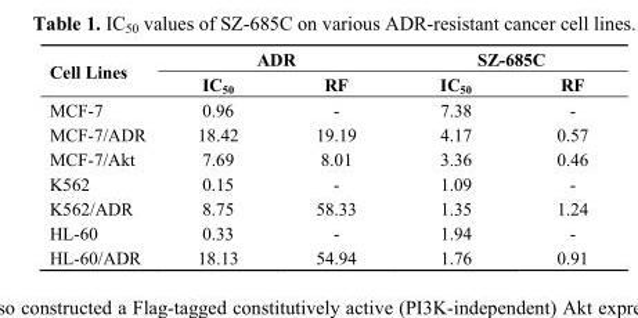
<table><thead><tr><td rowspan="2">Cell Lines</td><td colspan="2">ADR</td><td colspan="2">SZ-685C</td></tr><tr><td>IC<sub>50</sub></td><td>RF</td><td>IC<sub>50</sub></td><td>RF</td></tr></thead><tbody><tr><td>MCF-7</td><td>0.96</td><td>-</td><td>7.38</td><td>-</td></tr><tr><td>MCF-7/ADR</td><td>18.42</td><td>19.19</td><td>4.17</td><td>0.57</td></tr><tr><td>MCF-7/Akt</td><td>7.69</td><td>8.01</td><td>3.36</td><td>0.46</td></tr><tr><td>K562</td><td>0.15</td><td>-</td><td>1.09</td><td>-</td></tr><tr><td>K562/ADR</td><td>8.75</td><td>58.33</td><td>1.35</td><td>1.24</td></tr><tr><td>HL-60</td><td>0.33</td><td>-</td><td>1.94</td><td>-</td></tr><tr><td>HL-60/ADR</td><td>18.13</td><td>54.94</td><td>1.76</td><td>0.91</td></tr></tbody></table>